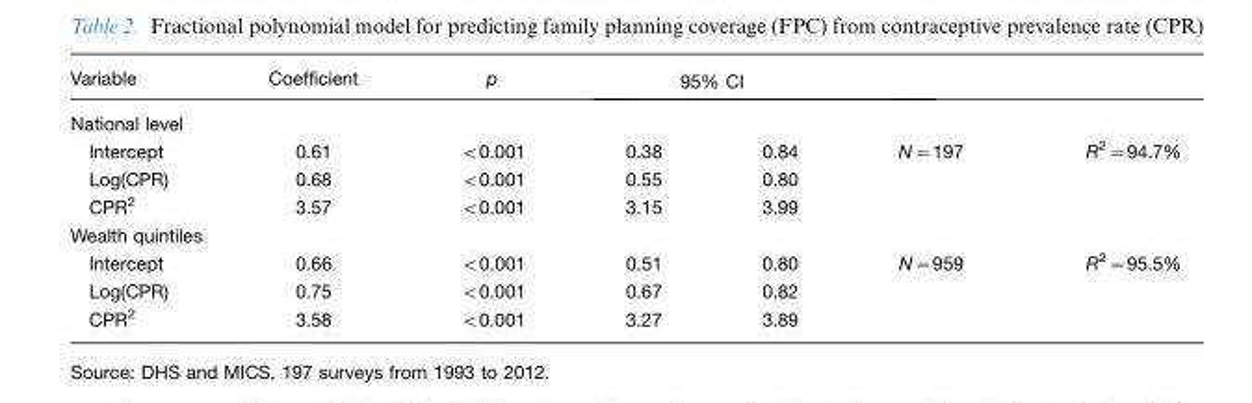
<table><thead><tr><td>Variable</td><td>Coefficient</td><td>p</td><td colspan="2">95% CI</td><td></td><td></td></tr><tr><td colspan="7">National level</td></tr><tr><td>Intercept</td><td>0.61</td><td>&lt;0.001</td><td>0.38</td><td>0.84</td><td>N=197</td><td>R2=94.7%</td></tr></thead><tbody><tr><td>Log(CPR)</td><td>0.68</td><td>&lt;0.001</td><td>0.55</td><td>0.80</td><td></td><td></td></tr><tr><td>CPR2</td><td>3.57</td><td>&lt;0.001</td><td>3.15</td><td>3.99</td><td></td><td></td></tr><tr><td colspan="7">Wealth quintiles</td></tr><tr><td>Intercept</td><td>0.66</td><td>&lt;0.001</td><td>0.51</td><td>0.80</td><td>N=959</td><td>R2=95.5%</td></tr><tr><td>Log(CPR)</td><td>0.75</td><td>&lt;0.001</td><td>0.67</td><td>0.82</td><td></td><td></td></tr><tr><td>CPR2</td><td>3.58</td><td>&lt;0.001</td><td>3.27</td><td>3.89</td><td></td><td></td></tr></tbody></table>